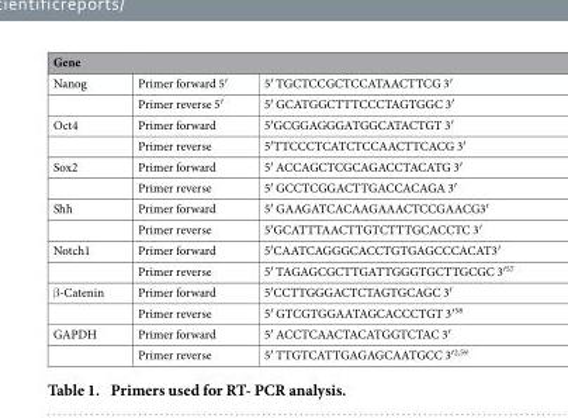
<table><thead><tr><td colspan="3">Gene</td></tr><tr><td>Nanog</td><td>Primer forward 5′</td><td>5′ TGCTCCGCTCCATAACTTCG 3′</td></tr></thead><tbody><tr><td></td><td>Primer reverse 5′</td><td>5′ GCATGGCTTTCCCTAGTGGC 3′</td></tr><tr><td rowspan="2">Oct4</td><td>Primer forward</td><td>5′ GCGGAGGGATGGCATACTGT 3′</td></tr><tr><td>Primer reverse</td><td>5′ TTCCCTCATCTCCAACTTCACG 3′</td></tr><tr><td rowspan="2">Sox2</td><td>Primer forward</td><td>5′ ACCAGCTCGCAGACCTACATG 3′</td></tr><tr><td>Primer reverse</td><td>5′ GCCTCGGACTTGACCACAGA 3′</td></tr><tr><td rowspan="2">Shh</td><td>Primer forward</td><td>5′ GAAGATCACAAGAAACTCCGAACG3′</td></tr><tr><td>Primer reverse</td><td>5′ GCATTTAACTTGTCTTTGCACCTC 3′</td></tr><tr><td rowspan="2">Notch1</td><td>Primer forward</td><td>5′ CAATCAGGGCACCTGTGAGCCCACAT3′</td></tr><tr><td>Primer reverse</td><td>5′ TAGAGCGCTTGATTGGGTGCTTGCGC 3′ <sup>57</sup></td></tr><tr><td rowspan="2">β -Catenin</td><td>Primer forward</td><td>5′ CCTTGGGACTCTAGTGCAGC 3′</td></tr><tr><td>Primer reverse</td><td>5′ GTCGTGGAATAGCACCCTGT 3′ <sup>58</sup></td></tr><tr><td rowspan="2">GAPDH</td><td>Primer forward</td><td>5′ ACCTCAACTACATGGTCTAC 3′</td></tr><tr><td>Primer reverse</td><td>5′ TTGTCATTGAGAGCAATGCC 3′ <sup>2</sup>,<sup>59</sup></td></tr></tbody></table>